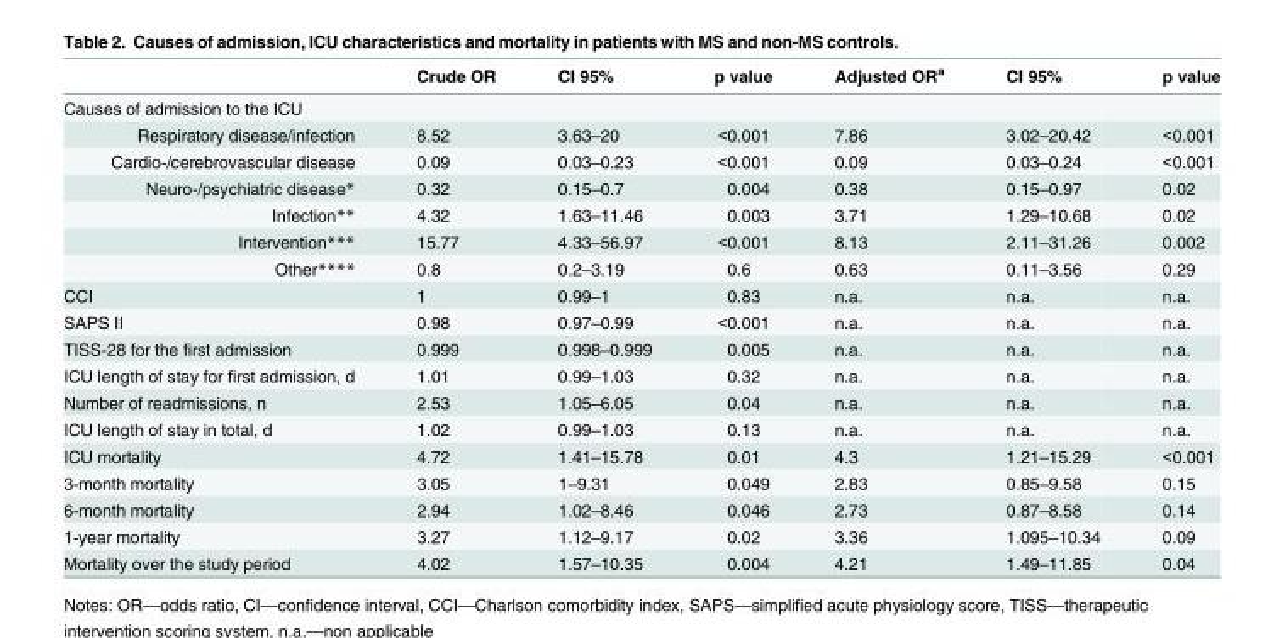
<table><thead><tr><td></td><td>Crude OR</td><td>CI 95%</td><td>p value</td><td>Adjusted OR<sup>a</sup></td><td>CI 95%</td><td>p value</td></tr></thead><tbody><tr><td colspan="7">Causes of admission to the ICU</td></tr><tr><td>Respiratory disease/infection</td><td>8.52</td><td>3.63–20</td><td>&lt;0.001</td><td>7.86</td><td>3.02–20.42</td><td>&lt;0.001</td></tr><tr><td>Cardio-/cerebrovascular disease</td><td>0.09</td><td>0.03–0.23</td><td>&lt;0.001</td><td>0.09</td><td>0.03–0.24</td><td>&lt;0.001</td></tr><tr><td>Neuro-/psychiatric disease*</td><td>0.32</td><td>0.15–0.7</td><td>0.004</td><td>0.38</td><td>0.15–0.97</td><td>0.02</td></tr><tr><td>Infection**</td><td>4.32</td><td>1.63–11.46</td><td>0.003</td><td>3.71</td><td>1.29–10.68</td><td>0.02</td></tr><tr><td>Intervention***</td><td>15.77</td><td>4.33–56.97</td><td>&lt;0.001</td><td>8.13</td><td>2.11–31.26</td><td>0.002</td></tr><tr><td>Other****</td><td>0.8</td><td>0.2–3.19</td><td>0.6</td><td>0.63</td><td>0.11–3.56</td><td>0.29</td></tr><tr><td>CCI</td><td>1</td><td>0.99–1</td><td>0.83</td><td>n.a.</td><td>n.a.</td><td>n.a.</td></tr><tr><td>SAPS II</td><td>0.98</td><td>0.97–0.99</td><td>&lt;0.001</td><td>n.a.</td><td>n.a.</td><td>n.a.</td></tr><tr><td>TISS-28 for the first admission</td><td>0.999</td><td>0.998–0.999</td><td>0.005</td><td>n.a.</td><td>n.a.</td><td>n.a.</td></tr><tr><td>ICU length of stay for first admission, d</td><td>1.01</td><td>0.99–1.03</td><td>0.32</td><td>n.a.</td><td>n.a.</td><td>n.a.</td></tr><tr><td>Number of readmissions, n</td><td>2.53</td><td>1.05–6.05</td><td>0.04</td><td>n.a.</td><td>n.a.</td><td>n.a.</td></tr><tr><td>ICU length of stay in total, d</td><td>1.02</td><td>0.99–1.03</td><td>0.13</td><td>n.a.</td><td>n.a.</td><td>n.a.</td></tr><tr><td>ICU mortality</td><td>4.72</td><td>1.41–15.78</td><td>0.01</td><td>4.3</td><td>1.21–15.29</td><td>&lt;0.001</td></tr><tr><td>3-month mortality</td><td>3.05</td><td>1–9.31</td><td>0.049</td><td>2.83</td><td>0.85–9.58</td><td>0.15</td></tr><tr><td>6-month mortality</td><td>2.94</td><td>1.02–8.46</td><td>0.046</td><td>2.73</td><td>0.87–8.58</td><td>0.14</td></tr><tr><td>1-year mortality</td><td>3.27</td><td>1.12–9.17</td><td>0.02</td><td>3.36</td><td>1.095–10.34</td><td>0.09</td></tr><tr><td>Mortality over the study period</td><td>4.02</td><td>1.57–10.35</td><td>0.004</td><td>4.21</td><td>1.49–11.85</td><td>0.04</td></tr></tbody></table>